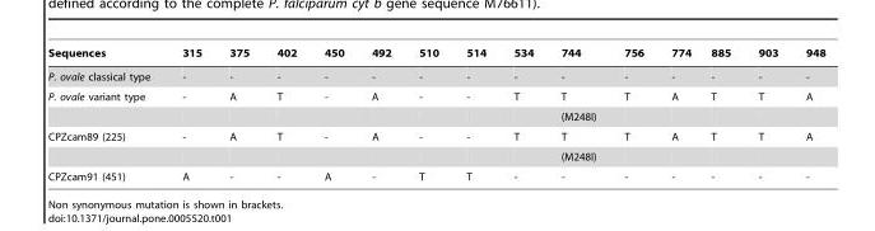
<table><thead><tr><td>Sequences</td><td>315</td><td>375</td><td>402</td><td>450</td><td>492</td><td>510</td><td>514</td><td>534</td><td>744</td><td>756</td><td>774</td><td>885</td><td>903</td><td>948</td></tr></thead><tbody><tr><td>P. ovale classical type</td><td>-</td><td>-</td><td>-</td><td>-</td><td>-</td><td>-</td><td>-</td><td>-</td><td>-</td><td>-</td><td>-</td><td>-</td><td>-</td><td>-</td></tr><tr><td rowspan="2">P. ovale variant type</td><td>-</td><td>A</td><td>T</td><td>-</td><td>A</td><td>-</td><td>-</td><td>T</td><td>T</td><td>T</td><td>A</td><td>T</td><td>T</td><td>A</td></tr><tr><td></td><td></td><td></td><td></td><td></td><td></td><td></td><td></td><td>(M248I)</td><td></td><td></td><td></td><td></td><td></td></tr><tr><td rowspan="2">CPZcam89 (225)</td><td>-</td><td>A</td><td>T</td><td>-</td><td>A</td><td>-</td><td>-</td><td>T</td><td>T</td><td>T</td><td>A</td><td>T</td><td>T</td><td>A</td></tr><tr><td></td><td></td><td></td><td></td><td></td><td></td><td></td><td></td><td>(M248I)</td><td></td><td></td><td></td><td></td><td></td></tr><tr><td>CPZcam91 (451)</td><td>A</td><td>-</td><td>-</td><td>A</td><td>-</td><td>T</td><td>T</td><td>-</td><td>-</td><td>-</td><td>-</td><td>-</td><td>-</td><td>-</td></tr></tbody></table>